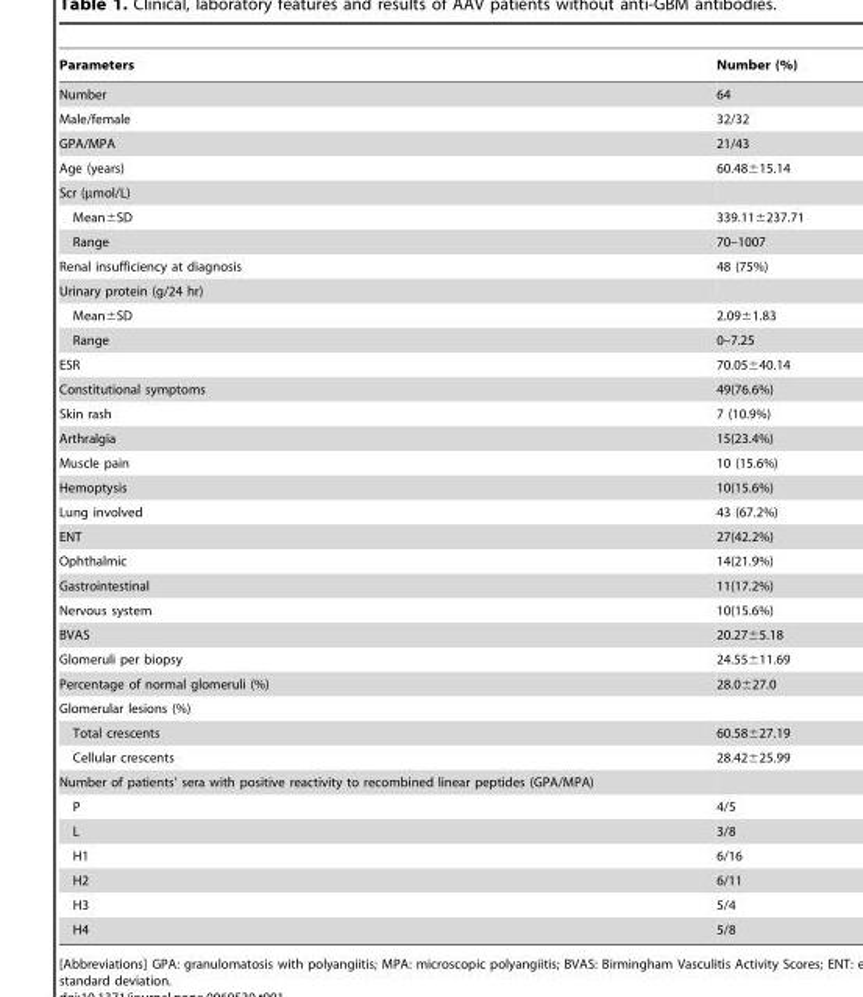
<table><thead><tr><td>Parameters</td><td>Number (%)</td></tr></thead><tbody><tr><td>Number</td><td>64</td></tr><tr><td>Male/female</td><td>32/32</td></tr><tr><td>GPA/MPA</td><td>21/43</td></tr><tr><td>Age (years)</td><td>60.48±15.14</td></tr><tr><td colspan="2">Scr (µmol/L)</td></tr><tr><td>Mean±SD</td><td>339.11±237.71</td></tr><tr><td>Range</td><td>70–1007</td></tr><tr><td>Renal insufficiency at diagnosis</td><td>48 (75%)</td></tr><tr><td colspan="2">Urinary protein (g/24 hr)</td></tr><tr><td>Mean±SD</td><td>2.09±1.83</td></tr><tr><td>Range</td><td>0–7.25</td></tr><tr><td>ESR</td><td>70.05±40.14</td></tr><tr><td>Constitutional symptoms</td><td>49(76.6%)</td></tr><tr><td>Skin rash</td><td>7 (10.9%)</td></tr><tr><td>Arthralgia</td><td>15(23.4%)</td></tr><tr><td>Muscle pain</td><td>10 (15.6%)</td></tr><tr><td>Hemoptysis</td><td>10(15.6%)</td></tr><tr><td>Lung involved</td><td>43 (67.2%)</td></tr><tr><td>ENT</td><td>27(42.2%)</td></tr><tr><td>Ophthalmic</td><td>14(21.9%)</td></tr><tr><td>Gastrointestinal</td><td>11(17.2%)</td></tr><tr><td>Nervous system</td><td>10(15.6%)</td></tr><tr><td>BVAS</td><td>20.27±5.18</td></tr><tr><td>Glomeruli per biopsy</td><td>24.55±11.69</td></tr><tr><td>Percentage of normal glomeruli (%)</td><td>28.0±27.0</td></tr><tr><td colspan="2">Glomerular lesions (%)</td></tr><tr><td>Total crescents</td><td>60.58±27.19</td></tr><tr><td>Cellular crescents</td><td>28.42±25.99</td></tr><tr><td colspan="2">Number of patients’ sera with positive reactivity to recombined linear peptides (GPA/MPA)</td></tr><tr><td>P</td><td>4/5</td></tr><tr><td>L</td><td>3/8</td></tr><tr><td>H1</td><td>6/16</td></tr><tr><td>H2</td><td>6/11</td></tr><tr><td>H3</td><td>5/4</td></tr><tr><td>H4</td><td>5/8</td></tr></tbody></table>